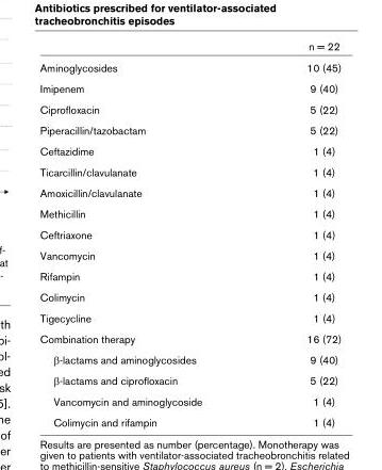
<table><thead><tr><td></td><td>n = 22</td></tr></thead><tbody><tr><td>Aminoglycosides</td><td>10 (45)</td></tr><tr><td>Imipenem</td><td>9 (40)</td></tr><tr><td>Ciprofloxacin</td><td>5 (22)</td></tr><tr><td>Piperacillin/tazobactam</td><td>5 (22)</td></tr><tr><td>Ceftazidime</td><td>1 (4)</td></tr><tr><td>Ticarcillin/clavulanate</td><td>1 (4)</td></tr><tr><td>Amoxicillin/clavulanate</td><td>1 (4)</td></tr><tr><td>Methicillin</td><td>1 (4)</td></tr><tr><td>Ceftriaxone</td><td>1 (4)</td></tr><tr><td>Vancomycin</td><td>1 (4)</td></tr><tr><td>Rifampin</td><td>1 (4)</td></tr><tr><td>Colimycin</td><td>1 (4)</td></tr><tr><td>Tigecycline</td><td>1 (4)</td></tr><tr><td>Combination therapy</td><td>16 (72)</td></tr><tr><td>β-lactams and aminoglycosides</td><td>9 (40)</td></tr><tr><td>β-lactams and ciprofloxacin</td><td>5 (22)</td></tr><tr><td>Vancomycin and aminoglycoside</td><td>1 (4)</td></tr><tr><td>Colimycin and rifampin</td><td>1 (4)</td></tr></tbody></table>